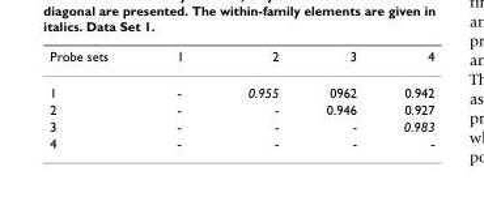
<table><thead><tr><td>Probe sets</td><td>1</td><td>2</td><td>3</td><td>4</td></tr></thead><tbody><tr><td>1</td><td>-</td><td>0.955</td><td>0962</td><td>0.942</td></tr><tr><td>2</td><td>-</td><td>-</td><td>0.946</td><td>0.927</td></tr><tr><td>3</td><td>-</td><td>-</td><td>-</td><td>0.983</td></tr><tr><td>4</td><td>-</td><td>-</td><td>-</td><td>-</td></tr></tbody></table>